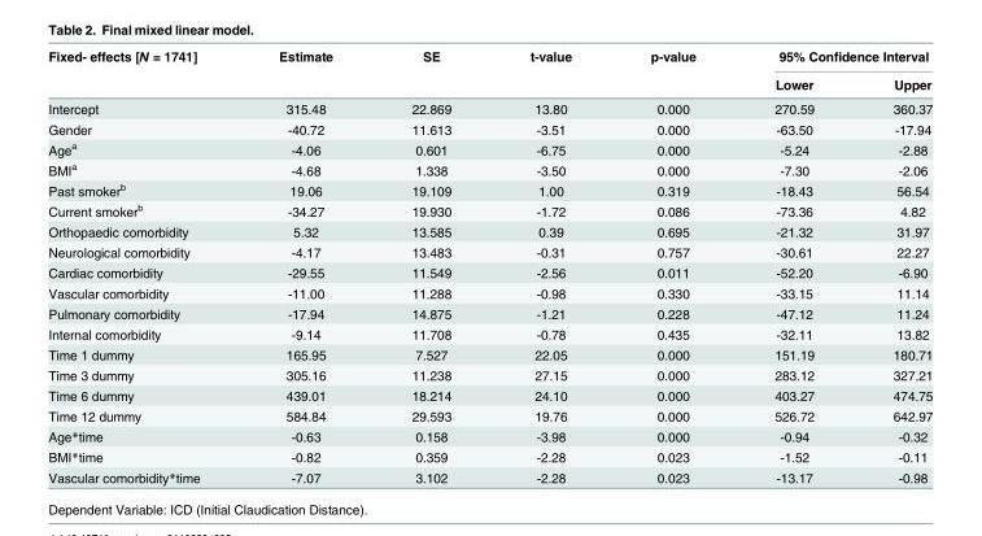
<table><thead><tr><td rowspan="2">Fixed- effects [N = 1741]</td><td rowspan="2">Estimate</td><td rowspan="2">SE</td><td rowspan="2">t-value</td><td rowspan="2">p-value</td><td colspan="2">95% Confidence Interval</td></tr><tr><td>Lower</td><td>Upper</td></tr></thead><tbody><tr><td>Intercept</td><td>315.48</td><td>22.869</td><td>13.80</td><td>0.000</td><td>270.59</td><td>360.37</td></tr><tr><td>Gender</td><td>-40.72</td><td>11.613</td><td>-3.51</td><td>0.000</td><td>-63.50</td><td>-17.94</td></tr><tr><td>Age<sup>a</sup></td><td>-4.06</td><td>0.601</td><td>-6.75</td><td>0.000</td><td>-5.24</td><td>-2.88</td></tr><tr><td>BMI<sup>a</sup></td><td>-4.68</td><td>1.338</td><td>-3.50</td><td>0.000</td><td>-7.30</td><td>-2.06</td></tr><tr><td>Past smoker<sup>b</sup></td><td>19.06</td><td>19.109</td><td>1.00</td><td>0.319</td><td>-18.43</td><td>56.54</td></tr><tr><td>Current smoker<sup>b</sup></td><td>-34.27</td><td>19.930</td><td>-1.72</td><td>0.086</td><td>-73.36</td><td>4.82</td></tr><tr><td>Orthopaedic comorbidity</td><td>5.32</td><td>13.585</td><td>0.39</td><td>0.695</td><td>-21.32</td><td>31.97</td></tr><tr><td>Neurological comorbidity</td><td>-4.17</td><td>13.483</td><td>-0.31</td><td>0.757</td><td>-30.61</td><td>22.27</td></tr><tr><td>Cardiac comorbidity</td><td>-29.55</td><td>11.549</td><td>-2.56</td><td>0.011</td><td>-52.20</td><td>-6.90</td></tr><tr><td>Vascular comorbidity</td><td>-11.00</td><td>11.288</td><td>-0.98</td><td>0.330</td><td>-33.15</td><td>11.14</td></tr><tr><td>Pulmonary comorbidity</td><td>-17.94</td><td>14.875</td><td>-1.21</td><td>0.228</td><td>-47.12</td><td>11.24</td></tr><tr><td>Internal comorbidity</td><td>-9.14</td><td>11.708</td><td>-0.78</td><td>0.435</td><td>-32.11</td><td>13.82</td></tr><tr><td>Time 1 dummy</td><td>165.95</td><td>7.527</td><td>22.05</td><td>0.000</td><td>151.19</td><td>180.71</td></tr><tr><td>Time 3 dummy</td><td>305.16</td><td>11.238</td><td>27.15</td><td>0.000</td><td>283.12</td><td>327.21</td></tr><tr><td>Time 6 dummy</td><td>439.01</td><td>18.214</td><td>24.10</td><td>0.000</td><td>403.27</td><td>474.75</td></tr><tr><td>Time 12 dummy</td><td>584.84</td><td>29.593</td><td>19.76</td><td>0.000</td><td>526.72</td><td>642.97</td></tr><tr><td>Age*time</td><td>-0.63</td><td>0.158</td><td>-3.98</td><td>0.000</td><td>-0.94</td><td>-0.32</td></tr><tr><td>BMI*time</td><td>-0.82</td><td>0.359</td><td>-2.28</td><td>0.023</td><td>-1.52</td><td>-0.11</td></tr><tr><td>Vascular comorbidity*time</td><td>-7.07</td><td>3.102</td><td>-2.28</td><td>0.023</td><td>-13.17</td><td>-0.98</td></tr></tbody></table>